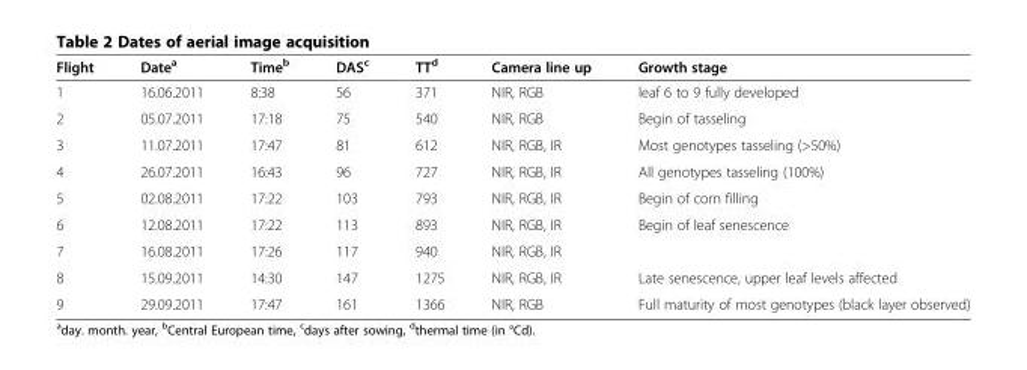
<table><thead><tr><td>Flight</td><td>Date<sup>a</sup></td><td>Time<sup>b</sup></td><td>DAS<sup>c</sup></td><td>TT<sup>d</sup></td><td>Camera line up</td><td>Growth stage</td></tr></thead><tbody><tr><td>1</td><td>16.06.2011</td><td>8:38</td><td>56</td><td>371</td><td>NIR, RGB</td><td>leaf 6 to 9 fully developed</td></tr><tr><td>2</td><td>05.07.2011</td><td>17:18</td><td>75</td><td>540</td><td>NIR, RGB</td><td>Begin of tasseling</td></tr><tr><td>3</td><td>11.07.2011</td><td>17:47</td><td>81</td><td>612</td><td>NIR, RGB, IR</td><td>Most genotypes tasseling (&gt;50%)</td></tr><tr><td>4</td><td>26.07.2011</td><td>16:43</td><td>96</td><td>727</td><td>NIR, RGB, IR</td><td>All genotypes tasseling (100%)</td></tr><tr><td>5</td><td>02.08.2011</td><td>17:22</td><td>103</td><td>793</td><td>NIR, RGB, IR</td><td>Begin of corn filling</td></tr><tr><td>6</td><td>12.08.2011</td><td>17:22</td><td>113</td><td>893</td><td>NIR, RGB, IR</td><td>Begin of leaf senescence</td></tr><tr><td>7</td><td>16.08.2011</td><td>17:26</td><td>117</td><td>940</td><td>NIR, RGB, IR</td><td></td></tr><tr><td>8</td><td>15.09.2011</td><td>14:30</td><td>147</td><td>1275</td><td>NIR, RGB, IR</td><td>Late senescence, upper leaf levels affected</td></tr><tr><td>9</td><td>29.09.2011</td><td>17:47</td><td>161</td><td>1366</td><td>NIR, RGB</td><td>Full maturity of most genotypes (black layer observed)</td></tr></tbody></table>